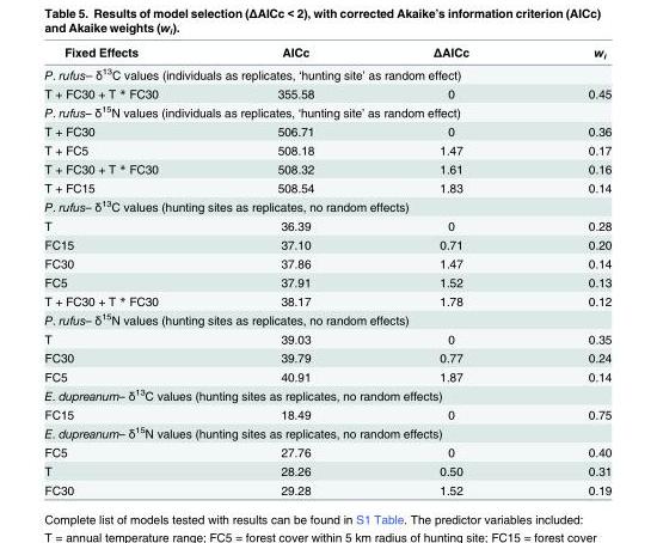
<table><thead><tr><td>Fixed Effects</td><td>AICc</td><td>ΔAICc</td><td>w<sub>i</sub></td></tr></thead><tbody><tr><td colspan="4">P. rufus– δ<sup>13</sup>C values (individuals as replicates, ‘hunting site’ as random effect)</td></tr><tr><td>T + FC30 + T * FC30</td><td>355.58</td><td>0</td><td>0.45</td></tr><tr><td colspan="4">P. rufus– δ<sup>15</sup>N values (individuals as replicates, ‘hunting site’ as random effect)</td></tr><tr><td>T + FC30</td><td>506.71</td><td>0</td><td>0.36</td></tr><tr><td>T + FC5</td><td>508.18</td><td>1.47</td><td>0.17</td></tr><tr><td>T + FC30 + T * FC30</td><td>508.32</td><td>1.61</td><td>0.16</td></tr><tr><td>T + FC15</td><td>508.54</td><td>1.83</td><td>0.14</td></tr><tr><td colspan="4">P. rufus– δ<sup>13</sup>C values (hunting sites as replicates, no random effects)</td></tr><tr><td>T</td><td>36.39</td><td>0</td><td>0.28</td></tr><tr><td>FC15</td><td>37.10</td><td>0.71</td><td>0.20</td></tr><tr><td>FC30</td><td>37.86</td><td>1.47</td><td>0.14</td></tr><tr><td>FC5</td><td>37.91</td><td>1.52</td><td>0.13</td></tr><tr><td>T + FC30 + T * FC30</td><td>38.17</td><td>1.78</td><td>0.12</td></tr><tr><td colspan="4">P. rufus– δ<sup>15</sup>N values (hunting sites as replicates, no random effects)</td></tr><tr><td>T</td><td>39.03</td><td>0</td><td>0.35</td></tr><tr><td>FC30</td><td>39.79</td><td>0.77</td><td>0.24</td></tr><tr><td>FC5</td><td>40.91</td><td>1.87</td><td>0.14</td></tr><tr><td colspan="4">E. dupreanum– δ<sup>13</sup>C values (hunting sites as replicates, no random effects)</td></tr><tr><td>FC15</td><td>18.49</td><td>0</td><td>0.75</td></tr><tr><td colspan="4">E. dupreanum– δ<sup>15</sup>N values (hunting sites as replicates, no random effects)</td></tr><tr><td>FC5</td><td>27.76</td><td>0</td><td>0.40</td></tr><tr><td>T</td><td>28.26</td><td>0.50</td><td>0.31</td></tr><tr><td>FC30</td><td>29.28</td><td>1.52</td><td>0.19</td></tr></tbody></table>